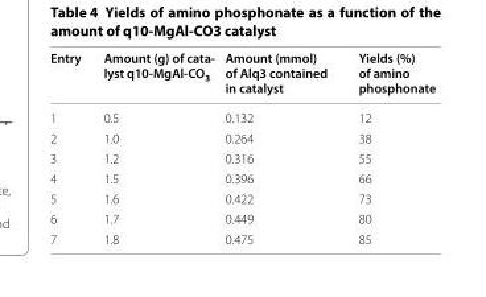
<table><thead><tr><td>Entry</td><td>Amount (g) of cata- lyst q10-MgAl-CO3</td><td>Amount (mmol) of Alq3 contained in catalyst</td><td>Yields (%) of amino phosphonate</td></tr></thead><tbody><tr><td>1</td><td>0.5</td><td>0.132</td><td>12</td></tr><tr><td>2</td><td>1.0</td><td>0.264</td><td>38</td></tr><tr><td>3</td><td>1.2</td><td>0.316</td><td>55</td></tr><tr><td>4</td><td>1.5</td><td>0.396</td><td>66</td></tr><tr><td>5</td><td>1.6</td><td>0.422</td><td>73</td></tr><tr><td>6</td><td>1.7</td><td>0.449</td><td>80</td></tr><tr><td>7</td><td>1.8</td><td>0.475</td><td>85</td></tr></tbody></table>